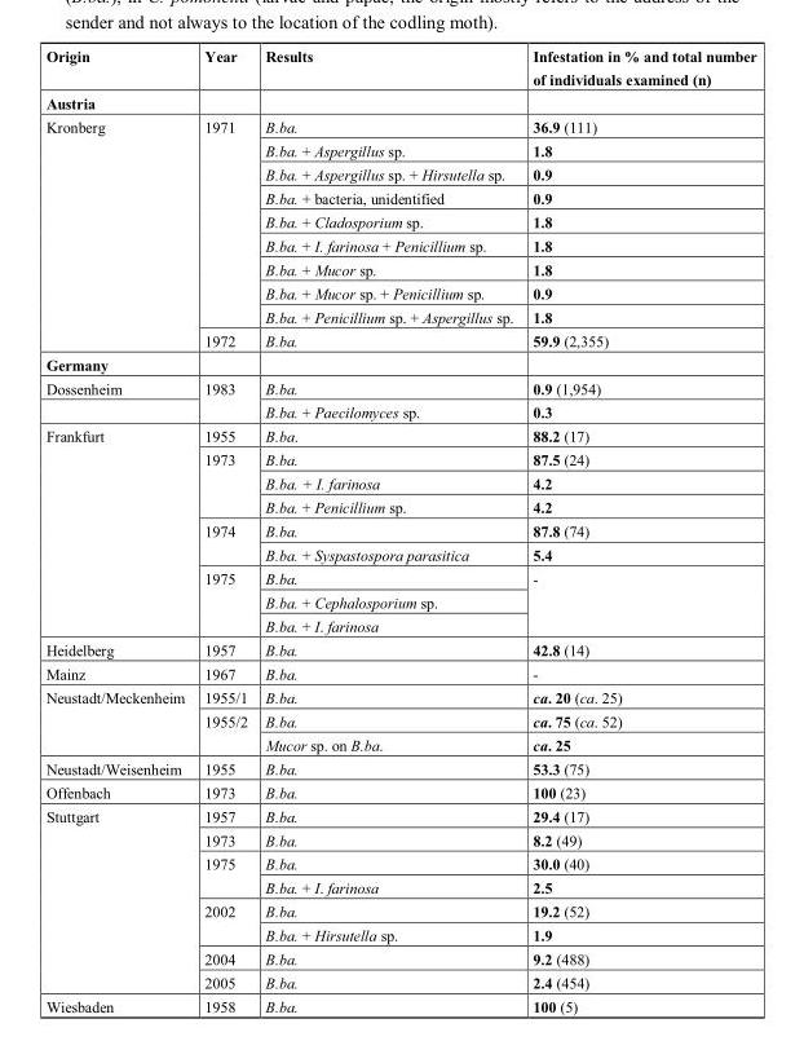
<table><thead><tr><td>Origin</td><td>Year</td><td>Results</td><td>Infestation in % and total number of individuals examined (n)</td></tr></thead><tbody><tr><td colspan="4">Austria</td></tr><tr><td rowspan="10">Kronberg</td><td rowspan="9">1971</td><td>B.ba.</td><td>36.9 (111)</td></tr><tr><td>B.ba. + Aspergillus sp.</td><td>1.8</td></tr><tr><td>B.ba. + Aspergillus sp. + Hirsutella sp.</td><td>0.9</td></tr><tr><td>B.ba. + bacteria, unidentified</td><td>0.9</td></tr><tr><td>B.ba. + Cladosporium sp.</td><td>1.8</td></tr><tr><td>B.ba. + I. farinosa + Penicillium sp.</td><td>1.8</td></tr><tr><td>B.ba. + Mucor sp.</td><td>1.8</td></tr><tr><td>B.ba. + Mucor sp. + Penicillium sp.</td><td>0.9</td></tr><tr><td>B.ba. + Penicillium sp. + Aspergillus sp.</td><td>1.8</td></tr><tr><td>1972</td><td>B.ba.</td><td>59.9 (2,355)</td></tr><tr><td colspan="4">Germany</td></tr><tr><td rowspan="2">Dossenheim</td><td rowspan="2">1983</td><td>B.ba.</td><td>0.9 (1,954)</td></tr><tr><td>B.ba. + Paecilomyces sp.</td><td>0.3</td></tr><tr><td rowspan="9">Frankfurt</td><td>1955</td><td>B.ba.</td><td>88.2 (17)</td></tr><tr><td rowspan="3">1973</td><td>B.ba.</td><td>87.5 (24)</td></tr><tr><td>B.ba. + I. farinosa</td><td>4.2</td></tr><tr><td>B.ba. + Penicillium sp.</td><td>4.2</td></tr><tr><td rowspan="2">1974</td><td>B.ba.</td><td>87.8 (74)</td></tr><tr><td>B.ba. + Syspastospora parasitica</td><td>5.4</td></tr><tr><td rowspan="3">1975</td><td>B.ba.</td><td rowspan="3">-</td></tr><tr><td>B.ba. + Cephalosporium sp.</td></tr><tr><td>B.ba. + I. farinosa</td></tr><tr><td>Heidelberg</td><td>1957</td><td>B.ba.</td><td>42.8 (14)</td></tr><tr><td>Mainz</td><td>1967</td><td>B.ba.</td><td>-</td></tr><tr><td rowspan="3">Neustadt/Meckenheim</td><td>1955/1</td><td>B.ba.</td><td>ca. 20 (ca. 25)</td></tr><tr><td rowspan="2">1955/2</td><td>B.ba.</td><td>ca. 75 (ca. 52)</td></tr><tr><td>Mucor sp. on B.ba.</td><td>ca. 25</td></tr><tr><td>Neustadt/Weisenheim</td><td>1955</td><td>B.ba.</td><td>53.3 (75)</td></tr><tr><td>Offenbach</td><td>1973</td><td>B.ba.</td><td>100 (23)</td></tr><tr><td rowspan="8">Stuttgart</td><td>1957</td><td>B.ba.</td><td>29.4 (17)</td></tr><tr><td>1973</td><td>B.ba.</td><td>8.2 (49)</td></tr><tr><td>1975</td><td>B.ba.</td><td>30.0 (40)</td></tr><tr><td></td><td>B.ba. + I. farinosa</td><td>2.5</td></tr><tr><td rowspan="2">2002</td><td>B.ba.</td><td>19.2 (52)</td></tr><tr><td>B.ba. + Hirsutella sp.</td><td>1.9</td></tr><tr><td>2004</td><td>B.ba.</td><td>9.2 (488)</td></tr><tr><td>2005</td><td>B.ba.</td><td>2.4 (454)</td></tr><tr><td>Wiesbaden</td><td>1958</td><td>B.ba.</td><td>100 (5)</td></tr></tbody></table>